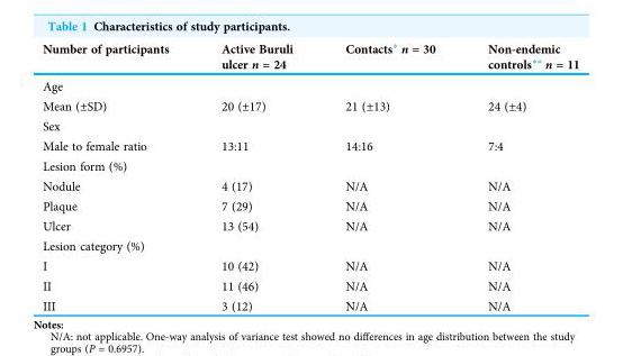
<table><thead><tr><td>Number of participants</td><td>Active Buruli ulcer n = 24</td><td>Contacts* n = 30</td><td>Non-endemic controls** n = 11</td></tr></thead><tbody><tr><td colspan="4">Age</td></tr><tr><td>Mean (±SD)</td><td>20 (±17)</td><td>21 (±13)</td><td>24 (±4)</td></tr><tr><td colspan="4">Sex</td></tr><tr><td>Male to female ratio</td><td>13:11</td><td>14:16</td><td>7:4</td></tr><tr><td colspan="4">Lesion form (%)</td></tr><tr><td>Nodule</td><td>4 (17)</td><td>N/A</td><td>N/A</td></tr><tr><td>Plaque</td><td>7 (29)</td><td>N/A</td><td>N/A</td></tr><tr><td>Ulcer</td><td>13 (54)</td><td>N/A</td><td>N/A</td></tr><tr><td colspan="4">Lesion category (%)</td></tr><tr><td>I</td><td>10 (42)</td><td>N/A</td><td>N/A</td></tr><tr><td>II</td><td>11 (46)</td><td>N/A</td><td>N/A</td></tr><tr><td>III</td><td>3 (12)</td><td>N/A</td><td>N/A</td></tr></tbody></table>